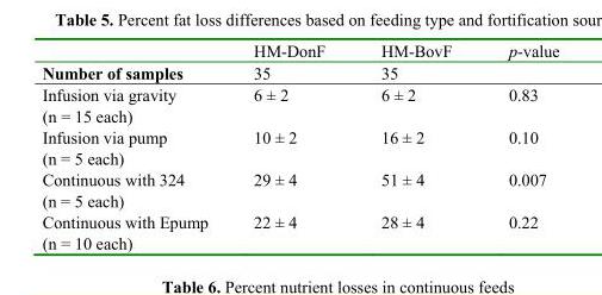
<table><thead><tr><td></td><td>HM-DonF</td><td>HM-BovF</td><td>p-value</td></tr></thead><tbody><tr><td>Number of samples</td><td>35</td><td>35</td><td></td></tr><tr><td>Infusion via gravity (n = 15 each)</td><td>6 ± 2</td><td>6 ± 2</td><td>0.83</td></tr><tr><td>Infusion via pump (n = 5 each)</td><td>10 ± 2</td><td>16 ± 2</td><td>0.10</td></tr><tr><td>Continuous with 324 (n = 5 each)</td><td>29 ± 4</td><td>51 ± 4</td><td>0.007</td></tr><tr><td>Continuous with Epump (n = 10 each)</td><td>22 ± 4</td><td>28 ± 4</td><td>0.22</td></tr></tbody></table>